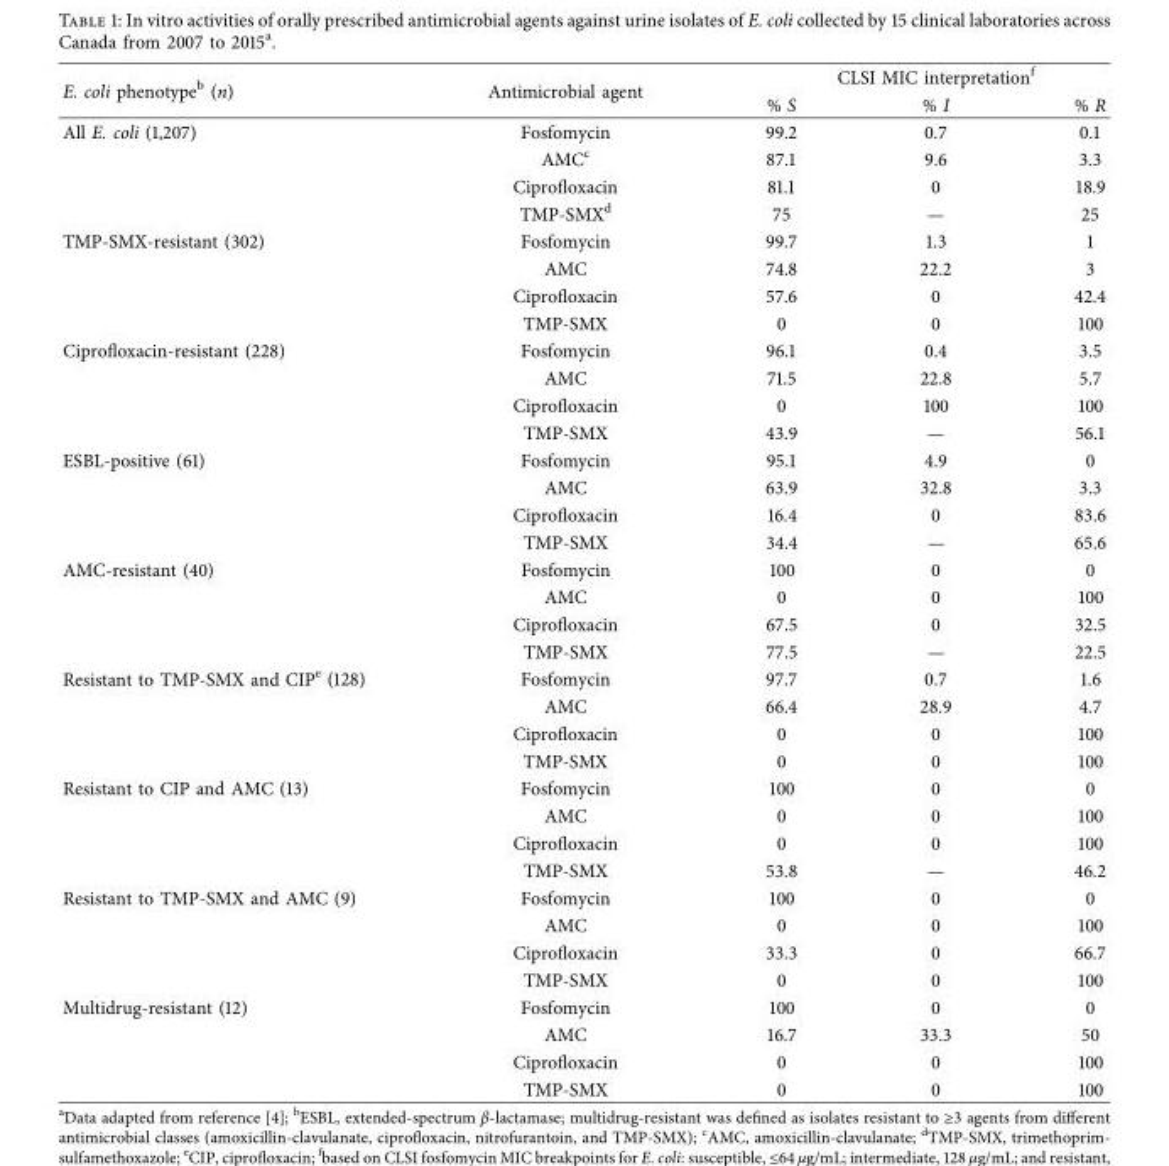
<table><thead><tr><td rowspan="2">E. coli phenotype<sup>b</sup> (n)</td><td rowspan="2">Antimicrobial agent</td><td colspan="3">CLSI MIC interpretation<sup>f</sup></td></tr><tr><td>% S</td><td>% I</td><td>% R</td></tr></thead><tbody><tr><td rowspan="4">All E. coli (1,207)</td><td>Fosfomycin</td><td>99.2</td><td>0.7</td><td>0.1</td></tr><tr><td>AMC<sup>c</sup></td><td>87.1</td><td>9.6</td><td>3.3</td></tr><tr><td>Ciprofoxacin</td><td>81.1</td><td>0</td><td>18.9</td></tr><tr><td>TMP-SMX<sup>d</sup></td><td>75</td><td>—</td><td>25</td></tr><tr><td rowspan="4">TMP-SMX-resistant (302)</td><td>Fosfomycin</td><td>99.7</td><td>1.3</td><td>1</td></tr><tr><td>AMC</td><td>74.8</td><td>22.2</td><td>3</td></tr><tr><td>Ciprofoxacin</td><td>57.6</td><td>0</td><td>42.4</td></tr><tr><td>TMP-SMX</td><td>0</td><td>0</td><td>100</td></tr><tr><td rowspan="4">Ciprofoxacin-resistant (228)</td><td>Fosfomycin</td><td>96.1</td><td>0.4</td><td>3.5</td></tr><tr><td>AMC</td><td>71.5</td><td>22.8</td><td>5.7</td></tr><tr><td>Ciprofoxacin</td><td>0</td><td>100</td><td>100</td></tr><tr><td>TMP-SMX</td><td>43.9</td><td>—</td><td>56.1</td></tr><tr><td rowspan="4">ESBL-positive (61)</td><td>Fosfomycin</td><td>95.1</td><td>4.9</td><td>0</td></tr><tr><td>AMC</td><td>63.9</td><td>32.8</td><td>3.3</td></tr><tr><td>Ciprofoxacin</td><td>16.4</td><td>0</td><td>83.6</td></tr><tr><td>TMP-SMX</td><td>34.4</td><td>—</td><td>65.6</td></tr><tr><td rowspan="4">AMC-resistant (40)</td><td>Fosfomycin</td><td>100</td><td>0</td><td>0</td></tr><tr><td>AMC</td><td>0</td><td>0</td><td>100</td></tr><tr><td>Ciprofoxacin</td><td>67.5</td><td>0</td><td>32.5</td></tr><tr><td>TMP-SMX</td><td>77.5</td><td>—</td><td>22.5</td></tr><tr><td rowspan="4">Resistant to TMP-SMX and CIP<sup>e</sup> (128)</td><td>Fosfomycin</td><td>97.7</td><td>0.7</td><td>1.6</td></tr><tr><td>AMC</td><td>66.4</td><td>28.9</td><td>4.7</td></tr><tr><td>Ciprofoxacin</td><td>0</td><td>0</td><td>100</td></tr><tr><td>TMP-SMX</td><td>0</td><td>0</td><td>100</td></tr><tr><td rowspan="4">Resistant to CIP and AMC (13)</td><td>Fosfomycin</td><td>100</td><td>0</td><td>0</td></tr><tr><td>AMC</td><td>0</td><td>0</td><td>100</td></tr><tr><td>Ciprofoxacin</td><td>0</td><td>0</td><td>100</td></tr><tr><td>TMP-SMX</td><td>53.8</td><td>—</td><td>46.2</td></tr><tr><td rowspan="4">Resistant to TMP-SMX and AMC (9)</td><td>Fosfomycin</td><td>100</td><td>0</td><td>0</td></tr><tr><td>AMC</td><td>0</td><td>0</td><td>100</td></tr><tr><td>Ciprofoxacin</td><td>33.3</td><td>0</td><td>66.7</td></tr><tr><td>TMP-SMX</td><td>0</td><td>0</td><td>100</td></tr><tr><td rowspan="4">Multidrug-resistant (12)</td><td>Fosfomycin</td><td>100</td><td>0</td><td>0</td></tr><tr><td>AMC</td><td>16.7</td><td>33.3</td><td>50</td></tr><tr><td>Ciprofoxacin</td><td>0</td><td>0</td><td>100</td></tr><tr><td>TMP-SMX</td><td>0</td><td>0</td><td>100</td></tr></tbody></table>